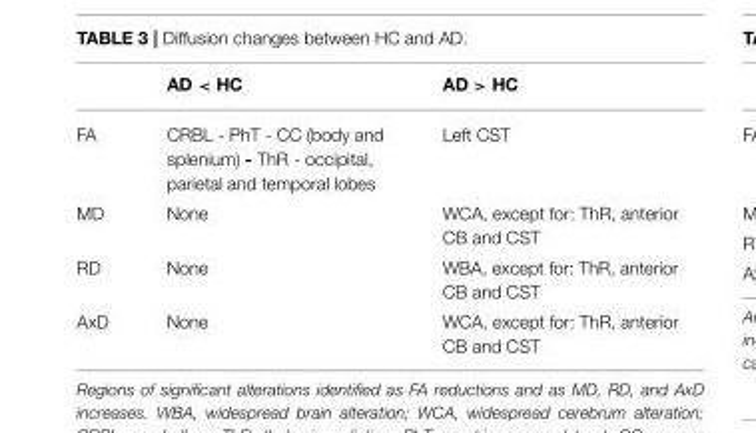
<table><thead><tr><td></td><td>AD &lt; HC</td><td>AD &gt; HC</td></tr></thead><tbody><tr><td>FA</td><td>CRBL - PhT - CC (body and splenium) - ThR - occipital, parietal and temporal lobes</td><td>Left CST</td></tr><tr><td>MD</td><td>None</td><td>WCA, except for: ThR, anterior CB and CST</td></tr><tr><td>RD</td><td>None</td><td>WBA, except for: ThR, anterior CB and CST</td></tr><tr><td>AxD</td><td>None</td><td>WCA, except for: ThR, anterior CB and CST</td></tr></tbody></table>